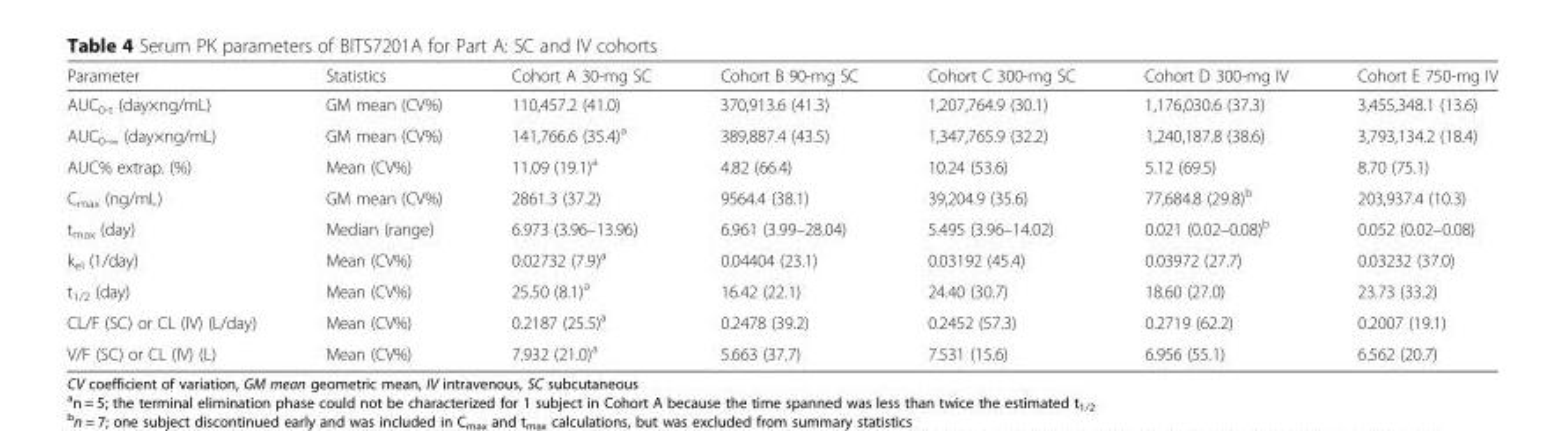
<table><thead><tr><td>Parameter</td><td>Statistics</td><td>Cohort A 30-mg SC</td><td>Cohort B 90-mg SC</td><td>Cohort C 300-mg SC</td><td>Cohort D 300-mg IV</td><td>Cohort E 750-mg IV</td></tr></thead><tbody><tr><td>AUC<sub>0-t</sub> (day×ng/mL)</td><td>GM mean (CV%)</td><td>110,457.2 (41.0)</td><td>370,913.6 (41.3)</td><td>1,207,764.9 (30.1)</td><td>1,176,030.6 (37.3)</td><td>3,455,348.1 (13.6)</td></tr><tr><td>AUC<sub>0-∞</sub> (day×ng/mL)</td><td>GM mean (CV%)</td><td>141,766.6 (35.4)<sup>a</sup></td><td>389,887.4 (43.5)</td><td>1,347,765.9 (32.2)</td><td>1,240,187.8 (38.6)</td><td>3,793,134.2 (18.4)</td></tr><tr><td>AUC% extrap. (%)</td><td>Mean (CV%)</td><td>11.09 (19.1)<sup>a</sup></td><td>4.82 (66.4)</td><td>10.24 (53.6)</td><td>5.12 (69.5)</td><td>8.70 (75.1)</td></tr><tr><td>C<sub>max</sub> (ng/mL)</td><td>GM mean (CV%)</td><td>2861.3 (37.2)</td><td>9564.4 (38.1)</td><td>39,204.9 (35.6)</td><td>77,684.8 (29.8)<sup>b</sup></td><td>203,937.4 (10.3)</td></tr><tr><td>t<sub>max</sub> (day)</td><td>Median (range)</td><td>6.973 (3.96–13.96)</td><td>6.961 (3.99–28.04)</td><td>5.495 (3.96–14.02)</td><td>0.021 (0.02–0.08)<sup>b</sup></td><td>0.052 (0.02–0.08)</td></tr><tr><td>k<sub>el</sub> (1/day)</td><td>Mean (CV%)</td><td>0.02732 (7.9)<sup>a</sup></td><td>0.04404 (23.1)</td><td>0.03192 (45.4)</td><td>0.03972 (27.7)</td><td>0.03232 (37.0)</td></tr><tr><td>t<sub>1/2</sub> (day)</td><td>Mean (CV%)</td><td>25.50 (8.1)<sup>a</sup></td><td>16.42 (22.1)</td><td>24.40 (30.7)</td><td>18.60 (27.0)</td><td>23.73 (33.2)</td></tr><tr><td>CL/F (SC) or CL (IV) (L/day)</td><td>Mean (CV%)</td><td>0.2187 (25.5)<sup>a</sup></td><td>0.2478 (39.2)</td><td>0.2452 (57.3)</td><td>0.2719 (62.2)</td><td>0.2007 (19.1)</td></tr><tr><td>V/F (SC) or CL (IV) (L)</td><td>Mean (CV%)</td><td>7.932 (21.0)<sup>a</sup></td><td>5.663 (37.7)</td><td>7.531 (15.6)</td><td>6.956 (55.1)</td><td>6.562 (20.7)</td></tr></tbody></table>